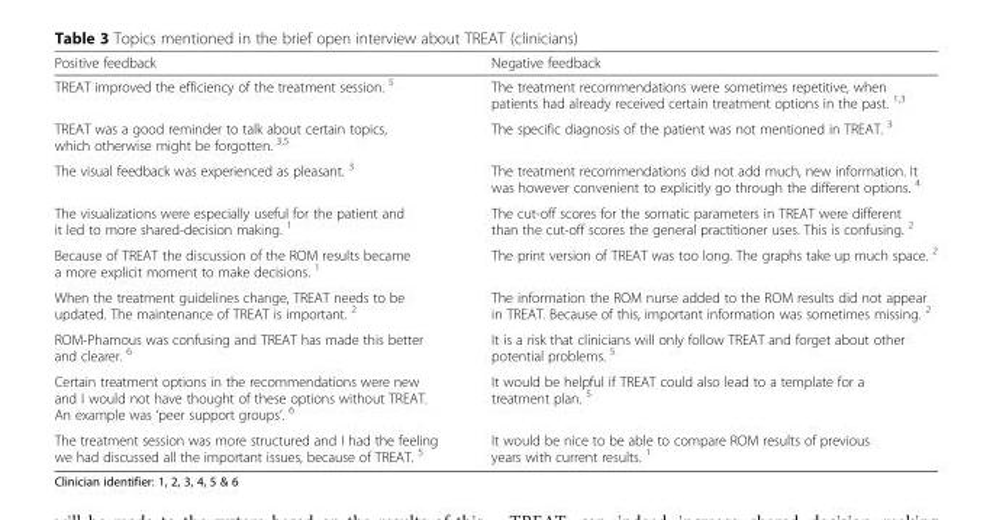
<table><thead><tr><td>Positive feedback</td><td>Negative feedback</td></tr></thead><tbody><tr><td>TREAT improved the efficiency of the treatment session. <sup>5</sup></td><td>The treatment recommendations were sometimes repetitive, when patients had already received certain treatment options in the past. <sup>1,3</sup></td></tr><tr><td>TREAT was a good reminder to talk about certain topics, which otherwise might be forgotten. <sup>3,5</sup></td><td>The specific diagnosis of the patient was not mentioned in TREAT. <sup>3</sup></td></tr><tr><td>The visual feedback was experienced as pleasant. <sup>3</sup></td><td>The treatment recommendations did not add much, new information. It was however convenient to explicitly go through the different options. <sup>4</sup></td></tr><tr><td>The visualizations were especially useful for the patient and it led to more shared-decision making. <sup>1</sup></td><td>The cut-off scores for the somatic parameters in TREAT were different than the cut-off scores the general practitioner uses. This is confusing. <sup>2</sup></td></tr><tr><td>Because of TREAT the discussion of the ROM results became a more explicit moment to make decisions. <sup>1</sup></td><td>The print version of TREAT was too long. The graphs take up much space. <sup>2</sup></td></tr><tr><td>When the treatment guidelines change, TREAT needs to be updated. The maintenance of TREAT is important. <sup>2</sup></td><td>The information the ROM nurse added to the ROM results did not appear in TREAT. Because of this, important information was sometimes missing. <sup>2</sup></td></tr><tr><td>ROM-Phamous was confusing and TREAT has made this better and clearer. <sup>6</sup></td><td>It is a risk that clinicians will only follow TREAT and forget about other potential problems. <sup>5</sup></td></tr><tr><td>Certain treatment options in the recommendations were new and I would not have thought of these options without TREAT. An example was ‘peer support groups’. <sup>6</sup></td><td>It would be helpful if TREAT could also lead to a template for a treatment plan. <sup>5</sup></td></tr><tr><td>The treatment session was more structured and I had the feeling we had discussed all the important issues, because of TREAT. <sup>5</sup></td><td>It would be nice to be able to compare ROM results of previous years with current results. <sup>1</sup></td></tr></tbody></table>